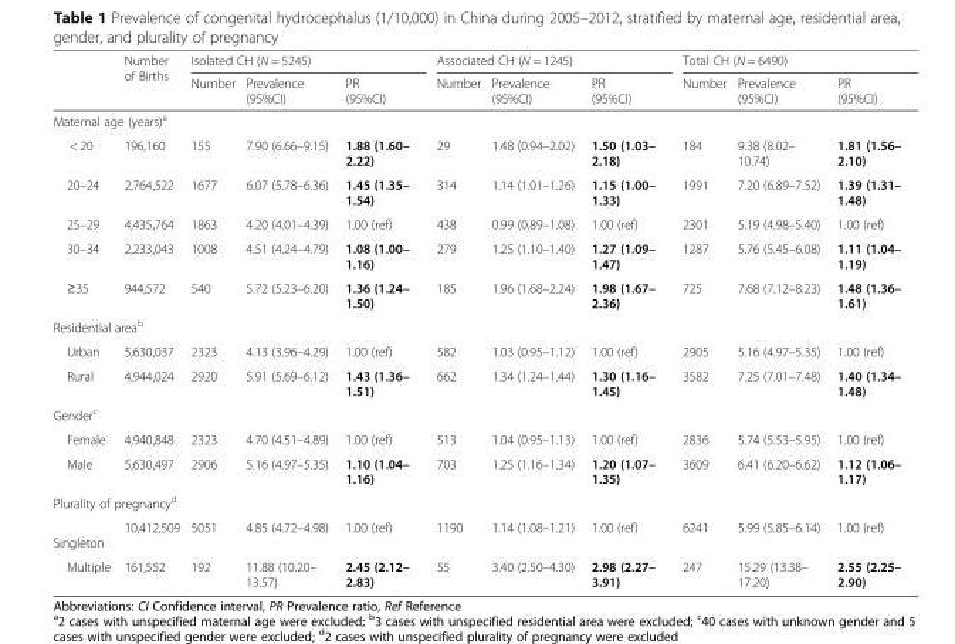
<table><thead><tr><td rowspan="2"></td><td rowspan="2">Number of Births</td><td colspan="3">Isolated CH (N = 5245)</td><td colspan="3">Associated CH (N = 1245)</td><td colspan="3">Total CH (N = 6490)</td></tr><tr><td>Number</td><td>Prevalence (95%CI)</td><td>PR (95%CI)</td><td>Number</td><td>Prevalence (95%CI)</td><td>PR (95%CI)</td><td>Number</td><td>Prevalence (95%CI)</td><td>PR (95%CI)</td></tr></thead><tbody><tr><td colspan="11">Maternal age (years)<sup>a</sup></td></tr><tr><td>&lt; 20</td><td>196,160</td><td>155</td><td>7.90 (6.66–9.15)</td><td>1.88 (1.60– 2.22)</td><td>29</td><td>1.48 (0.94–2.02)</td><td>1.50 (1.03– 2.18)</td><td>184</td><td>9.38 (8.02– 10.74)</td><td>1.81 (1.56– 2.10)</td></tr><tr><td>20–24</td><td>2,764,522</td><td>1677</td><td>6.07 (5.78–6.36)</td><td>1.45 (1.35– 1.54)</td><td>314</td><td>1.14 (1.01–1.26)</td><td>1.15 (1.00– 1.33)</td><td>1991</td><td>7.20 (6.89–7.52)</td><td>1.39 (1.31– 1.48)</td></tr><tr><td>25–29</td><td>4,435,764</td><td>1863</td><td>4.20 (4.01–4.39)</td><td>1.00 (ref)</td><td>438</td><td>0.99 (0.89–1.08)</td><td>1.00 (ref)</td><td>2301</td><td>5.19 (4.98–5.40)</td><td>1.00 (ref)</td></tr><tr><td>30–34</td><td>2,233,043</td><td>1008</td><td>4.51 (4.24–4.79)</td><td>1.08 (1.00– 1.16)</td><td>279</td><td>1.25 (1.10–1.40)</td><td>1.27 (1.09– 1.47)</td><td>1287</td><td>5.76 (5.45–6.08)</td><td>1.11 (1.04– 1.19)</td></tr><tr><td>≥35</td><td>944,572</td><td>540</td><td>5.72 (5.23–6.20)</td><td>1.36 (1.24– 1.50)</td><td>185</td><td>1.96 (1.68–2.24)</td><td>1.98 (1.67– 2.36)</td><td>725</td><td>7.68 (7.12–8.23)</td><td>1.48 (1.36– 1.61)</td></tr><tr><td colspan="11">Residential area<sup>b</sup></td></tr><tr><td>Urban</td><td>5,630,037</td><td>2323</td><td>4.13 (3.96–4.29)</td><td>1.00 (ref)</td><td>582</td><td>1.03 (0.95–1.12)</td><td>1.00 (ref)</td><td>2905</td><td>5.16 (4.97–5.35)</td><td>1.00 (ref)</td></tr><tr><td>Rural</td><td>4,944,024</td><td>2920</td><td>5.91 (5.69–6.12)</td><td>1.43 (1.36– 1.51)</td><td>662</td><td>1.34 (1.24–1.44)</td><td>1.30 (1.16– 1.45)</td><td>3582</td><td>7.25 (7.01–7.48)</td><td>1.40 (1.34– 1.48)</td></tr><tr><td colspan="11">Gender<sup>c</sup></td></tr><tr><td>Female</td><td>4,940,848</td><td>2323</td><td>4.70 (4.51–4.89)</td><td>1.00 (ref)</td><td>513</td><td>1.04 (0.95–1.13)</td><td>1.00 (ref)</td><td>2836</td><td>5.74 (5.53–5.95)</td><td>1.00 (ref)</td></tr><tr><td>Male</td><td>5,630,497</td><td>2906</td><td>5.16 (4.97–5.35)</td><td>1.10 (1.04– 1.16)</td><td>703</td><td>1.25 (1.16–1.34)</td><td>1.20 (1.07– 1.35)</td><td>3609</td><td>6.41 (6.20–6.62)</td><td>1.12 (1.06– 1.17)</td></tr><tr><td colspan="11">Plurality of pregnancy<sup>d</sup></td></tr><tr><td>Singleton</td><td>10,412,509</td><td>5051</td><td>4.85 (4.72–4.98)</td><td>1.00 (ref)</td><td>1190</td><td>1.14 (1.08–1.21)</td><td>1.00 (ref)</td><td>6241</td><td>5.99 (5.85–6.14)</td><td>1.00 (ref)</td></tr><tr><td>Multiple</td><td>161,552</td><td>192</td><td>11.88 (10.20– 13.57)</td><td>2.45 (2.12– 2.83)</td><td>55</td><td>3.40 (2.50–4.30)</td><td>2.98 (2.27– 3.91)</td><td>247</td><td>15.29 (13.38– 17.20)</td><td>2.55 (2.25– 2.90)</td></tr></tbody></table>